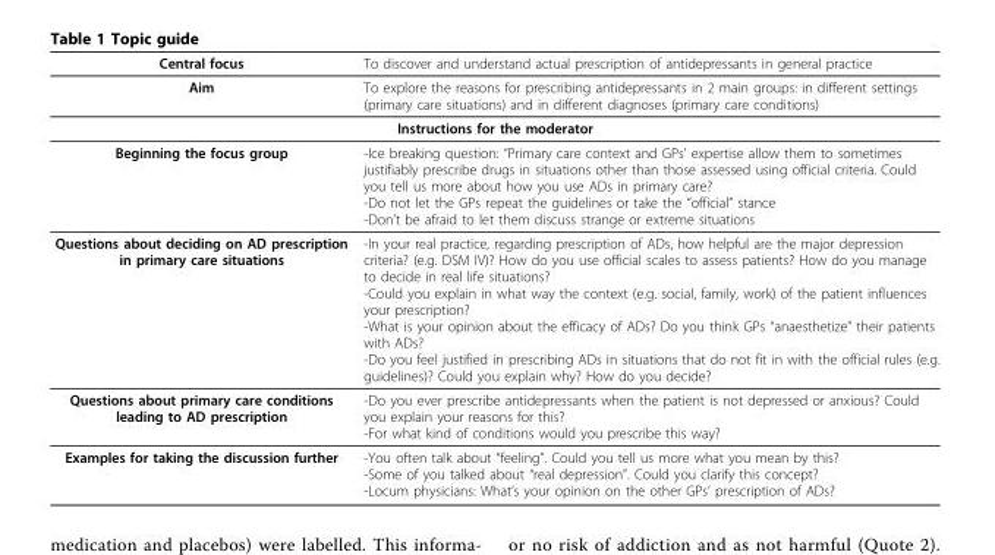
<table><thead><tr><td>Central focus</td><td>To discover and understand actual prescription of antidepressants in general practice</td></tr></thead><tbody><tr><td>Aim</td><td>To explore the reasons for prescribing antidepressants in 2 main groups: in different settings (primary care situations) and in different diagnoses (primary care conditions)</td></tr><tr><td colspan="2">Instructions for the moderator</td></tr><tr><td>Beginning the focus group</td><td>-Ice breaking question: “Primary care context and GPs’ expertise allow them to sometimes justifiably prescribe drugs in situations other than those assessed using official criteria. Could you tell us more about how you use ADs in primary care? -Do not let the GPs repeat the guidelines or take the “official” stance -Don’t be afraid to let them discuss strange or extreme situations</td></tr><tr><td>Questions about deciding on AD prescription in primary care situations</td><td>-In your real practice, regarding prescription of ADs, how helpful are the major depression criteria? (e.g. DSM IV)? How do you use official scales to assess patients? How do you manage to decide in real life situations? -Could you explain in what way the context (e.g. social, family, work) of the patient influences your prescription? -What is your opinion about the efficacy of ADs? Do you think GPs “anaesthetize” their patients with ADs? -Do you feel justified in prescribing ADs in situations that do not fit in with the official rules (e.g. guidelines)? Could you explain why? How do you decide?</td></tr><tr><td>Questions about primary care conditions leading to AD prescription</td><td>-Do you ever prescribe antidepressants when the patient is not depressed or anxious? Could you explain your reasons for this? -For what kind of conditions would you prescribe this way?</td></tr><tr><td>Examples for taking the discussion further</td><td>-You often talk about “feeling”. Could you tell us more what you mean by this? -Some of you talked about “real depression”. Could you clarify this concept? -Locum physicians: What’s your opinion on the other GPs’ prescription of ADs?</td></tr></tbody></table>